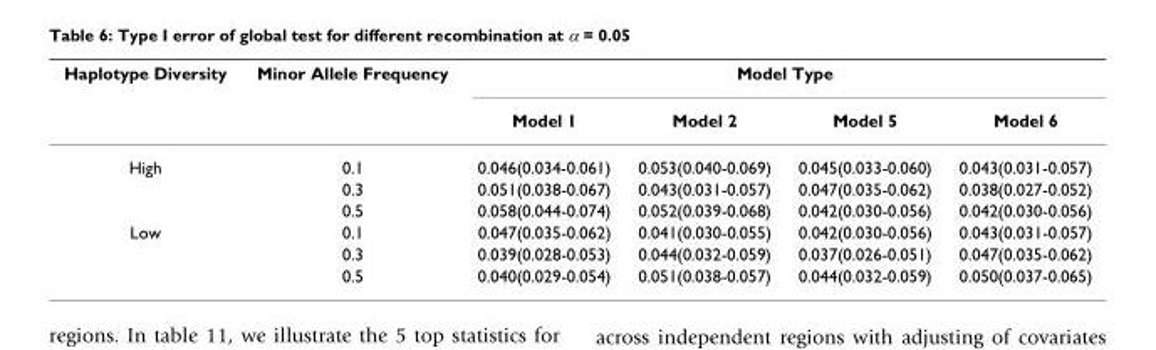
<table><thead><tr><td rowspan="2">Haplotype Diversity</td><td rowspan="2">Minor Allele Frequency</td><td colspan="4">Model Type</td></tr><tr><td>Model 1</td><td>Model 2</td><td>Model 5</td><td>Model 6</td></tr></thead><tbody><tr><td rowspan="3">High</td><td>0.1</td><td>0.046(0.034-0.061)</td><td>0.053(0.040-0.069)</td><td>0.045(0.033-0.060)</td><td>0.043(0.031-0.057)</td></tr><tr><td>0.3</td><td>0.051(0.038-0.067)</td><td>0.043(0.031-0.057)</td><td>0.047(0.035-0.062)</td><td>0.038(0.027-0.052)</td></tr><tr><td>0.5</td><td>0.058(0.044-0.074)</td><td>0.052(0.039-0.068)</td><td>0.042(0.030-0.056)</td><td>0.042(0.030-0.056)</td></tr><tr><td rowspan="3">Low</td><td>0.1</td><td>0.047(0.035-0.062)</td><td>0.041(0.030-0.055)</td><td>0.042(0.030-0.056)</td><td>0.043(0.031-0.057)</td></tr><tr><td>0.3</td><td>0.039(0.028-0.053)</td><td>0.044(0.032-0.059)</td><td>0.037(0.026-0.051)</td><td>0.047(0.035-0.062)</td></tr><tr><td>0.5</td><td>0.040(0.029-0.054)</td><td>0.051(0.038-0.057)</td><td>0.044(0.032-0.059)</td><td>0.050(0.037-0.065)</td></tr></tbody></table>